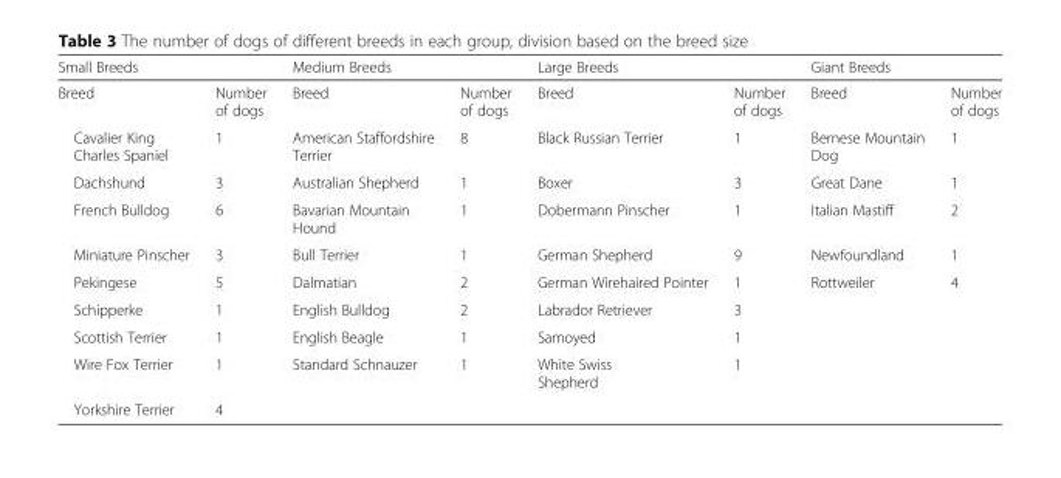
<table><thead><tr><td colspan="2">Small Breeds</td><td colspan="2">Medium Breeds</td><td colspan="2">Large Breeds</td><td colspan="2">Giant Breeds</td></tr><tr><td>Breed</td><td>Number of dogs</td><td>Breed</td><td>Number of dogs</td><td>Breed</td><td>Number of dogs</td><td>Breed</td><td>Number of dogs</td></tr></thead><tbody><tr><td>Cavalier King Charles Spaniel</td><td>1</td><td>American Staffordshire Terrier</td><td>8</td><td>Black Russian Terrier</td><td>1</td><td>Bernese Mountain Dog</td><td>1</td></tr><tr><td>Dachshund</td><td>3</td><td>Australian Shepherd</td><td>1</td><td>Boxer</td><td>3</td><td>Great Dane</td><td>1</td></tr><tr><td>French Bulldog</td><td>6</td><td>Bavarian Mountain Hound</td><td>1</td><td>Dobermann Pinscher</td><td>1</td><td>Italian Mastiff</td><td>2</td></tr><tr><td>Miniature Pinscher</td><td>3</td><td>Bull Terrier</td><td>1</td><td>German Shepherd</td><td>9</td><td>Newfoundland</td><td>1</td></tr><tr><td>Pekingese</td><td>5</td><td>Dalmatian</td><td>2</td><td>German Wirehaired Pointer</td><td>1</td><td>Rottweiler</td><td>4</td></tr><tr><td>Schipperke</td><td>1</td><td>English Bulldog</td><td>2</td><td>Labrador Retriever</td><td>3</td><td></td><td></td></tr><tr><td>Scottish Terrier</td><td>1</td><td>English Beagle</td><td>1</td><td>Samoyed</td><td>1</td><td></td><td></td></tr><tr><td>Wire Fox Terrier</td><td>1</td><td>Standard Schnauzer</td><td>1</td><td>White Swiss Shepherd</td><td>1</td><td></td><td></td></tr><tr><td>Yorkshire Terrier</td><td>4</td><td></td><td></td><td></td><td></td><td></td><td></td></tr></tbody></table>